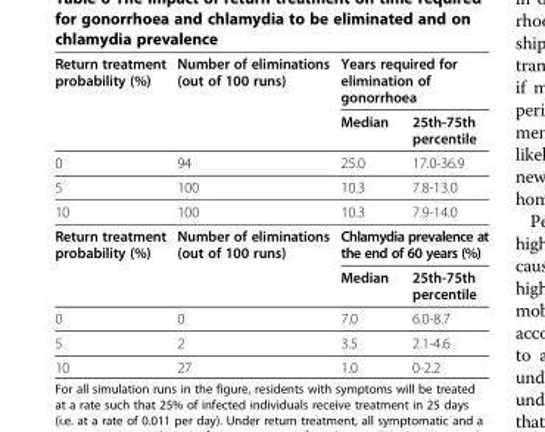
<table><tbody><tr><td rowspan="2">Return treatment probability (%)</td><td>Number of eliminations (out of 100 runs)</td><td colspan="2">Years required for elimination of gonorrhoea</td></tr><tr><td></td><td>Median</td><td>25th-75th percentile</td></tr><tr><td>0</td><td>94</td><td>25.0</td><td>17.0-36.9</td></tr><tr><td>5</td><td>100</td><td>10.3</td><td>7.8-13.0</td></tr><tr><td>10</td><td>100</td><td>10.3</td><td>7.9-14.0</td></tr><tr><td rowspan="2">Return treatment probability (%)</td><td>Number of eliminations (out of 100 runs)</td><td colspan="2">Chlamydia prevalence at the end of 60 years (%)</td></tr><tr><td></td><td>Median</td><td>25th-75th percentile</td></tr><tr><td>0</td><td>0</td><td>7.0</td><td>6.0-8.7</td></tr><tr><td>5</td><td>2</td><td>3.5</td><td>2.1-4.6</td></tr><tr><td>10</td><td>27</td><td>1.0</td><td>0-2.2</td></tr></tbody></table>